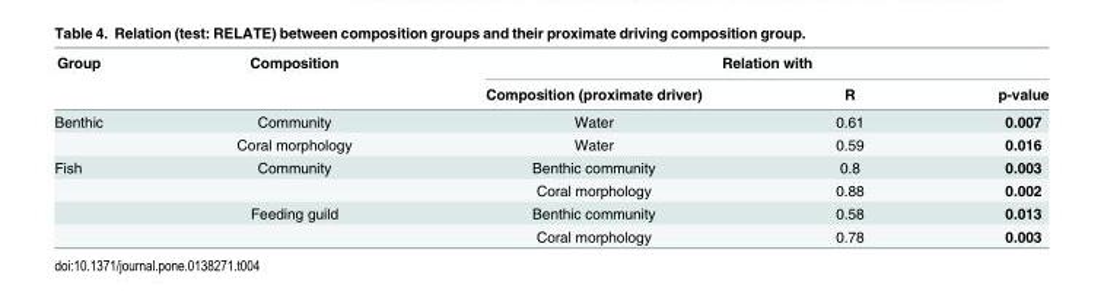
<table><thead><tr><td rowspan="2">Group</td><td rowspan="2">Composition</td><td colspan="3">Relation with</td></tr><tr><td>Composition (proximate driver)</td><td>R</td><td>p-value</td></tr></thead><tbody><tr><td rowspan="2">Benthic</td><td>Community</td><td>Water</td><td>0.61</td><td>0.007</td></tr><tr><td>Coral morphology</td><td>Water</td><td>0.59</td><td>0.016</td></tr><tr><td rowspan="4">Fish</td><td>Community</td><td>Benthic community</td><td>0.8</td><td>0.003</td></tr><tr><td></td><td>Coral morphology</td><td>0.88</td><td>0.002</td></tr><tr><td>Feeding guild</td><td>Benthic community</td><td>0.58</td><td>0.013</td></tr><tr><td></td><td>Coral morphology</td><td>0.78</td><td>0.003</td></tr></tbody></table>